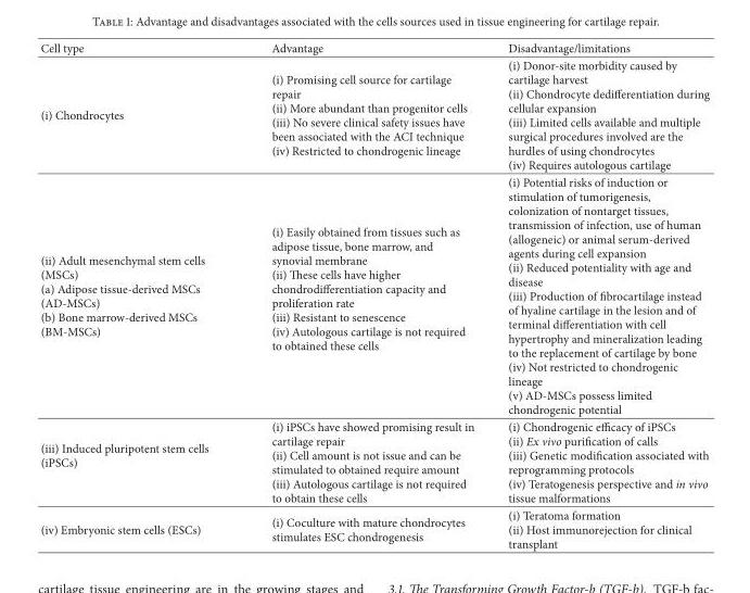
<table><thead><tr><td>Cell type</td><td>Advantage</td><td>Disadvantage/limitations</td></tr></thead><tbody><tr><td>(i) Chondrocytes</td><td>(i) Promising cell source for cartilage repair (ii) More abundant than progenitor cells (iii) No severe clinical safety issues have been associated with the ACI technique (iv) Restricted to chondrogenic lineage</td><td>(i) Donor-site morbidity caused by cartilage harvest (ii) Chondrocyte dedifferentiation during cellular expansion (iii) Limited cells available and multiple surgical procedures involved are the hurdles of using chondrocytes (iv) Requires autologous cartilage</td></tr><tr><td>(ii) Adult mesenchymal stem cells (MSCs) (a) Adipose tissue-derived MSCs (AD-MSCs) (b) Bone marrow-derived MSCs (BM-MSCs)</td><td>(i) Easily obtained from tissues such as adipose tissue, bone marrow, and synovial membrane (ii) These cells have higher chondrodifferentiation capacity and proliferation rate (iii) Resistant to senescence (iv) Autologous cartilage is not required to obtained these cells</td><td>(i) Potential risks of induction or stimulation of tumorigenesis, colonization of nontarget tissues, transmission of infection, use of human (allogeneic) or animal serum-derived agents during cell expansion (ii) Reduced potentiality with age and disease (iii) Production of fibrocartilage instead of hyaline cartilage in the lesion and of terminal differentiation with cell hypertrophy and mineralization leading to the replacement of cartilage by bone (iv) Not restricted to chondrogenic lineage (v) AD-MSCs possess limited chondrogenic potential</td></tr><tr><td>(iii) Induced pluripotent stem cells (iPSCs)</td><td>(i) iPSCs have showed promising result in cartilage repair (ii) Cell amount is not issue and can be stimulated to obtained require amount (iii) Autologous cartilage is not required to obtain these cells</td><td>(i) Chondrogenic efficacy of iPSCs (ii) Ex vivo purification of calls (iii) Genetic modification associated with reprogramming protocols (iv) Teratogenesis perspective and in vivo tissue malformations</td></tr><tr><td>(iv) Embryonic stem cells (ESCs)</td><td>(i) Coculture with mature chondrocytes stimulates ESC chondrogenesis</td><td>(i) Teratoma formation (ii) Host immunorejection for clinical transplant</td></tr></tbody></table>